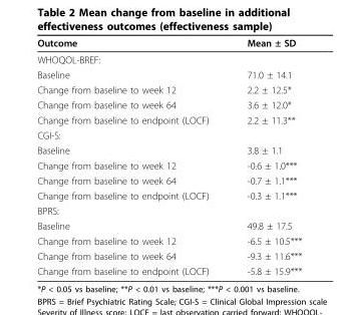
<table><thead><tr><td>Outcome</td><td>Mean ± SD</td></tr></thead><tbody><tr><td colspan="2">WHOQOL-BREF:</td></tr><tr><td>Baseline</td><td>71.0 ± 14.1</td></tr><tr><td>Change from baseline to week 12</td><td>2.2 ± 12.5*</td></tr><tr><td>Change from baseline to week 64</td><td>3.6 ± 12.0*</td></tr><tr><td>Change from baseline to endpoint (LOCF)</td><td>2.2 ± 11.3**</td></tr><tr><td colspan="2">CGI-S:</td></tr><tr><td>Baseline</td><td>3.8 ± 1.1</td></tr><tr><td>Change from baseline to week 12</td><td>-0.6 ± 1.0***</td></tr><tr><td>Change from baseline to week 64</td><td>-0.7 ± 1.1***</td></tr><tr><td>Change from baseline to endpoint (LOCF)</td><td>-0.3 ± 1.1***</td></tr><tr><td colspan="2">BPRS:</td></tr><tr><td>Baseline</td><td>49.8 ± 17.5</td></tr><tr><td>Change from baseline to week 12</td><td>-6.5 ± 10.5***</td></tr><tr><td>Change from baseline to week 64</td><td>-9.3 ± 11.6***</td></tr><tr><td>Change from baseline to endpoint (LOCF)</td><td>-5.8 ± 15.9***</td></tr></tbody></table>